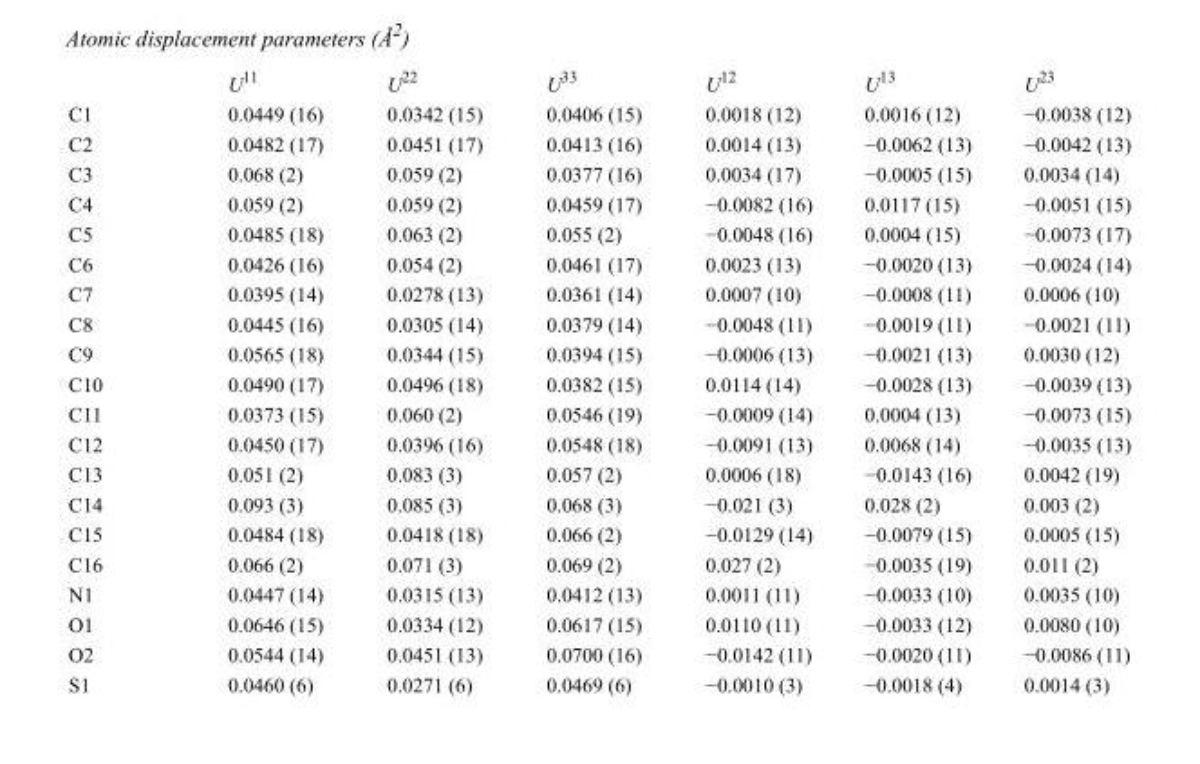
<table><thead><tr><td></td><td>U<sup>11</sup></td><td>U<sup>22</sup></td><td>U<sup>33</sup></td><td>U<sup>12</sup></td><td>U<sup>13</sup></td><td>U<sup>23</sup></td></tr></thead><tbody><tr><td>C1</td><td>0.0449 (16)</td><td>0.0342 (15)</td><td>0.0406 (15)</td><td>0.0018 (12)</td><td>0.0016 (12)</td><td>−0.0038 (12)</td></tr><tr><td>C2</td><td>0.0482 (17)</td><td>0.0451 (17)</td><td>0.0413 (16)</td><td>0.0014 (13)</td><td>−0.0062 (13)</td><td>−0.0042 (13)</td></tr><tr><td>C3</td><td>0.068 (2)</td><td>0.059 (2)</td><td>0.0377 (16)</td><td>0.0034 (17)</td><td>−0.0005 (15)</td><td>0.0034 (14)</td></tr><tr><td>C4</td><td>0.059 (2)</td><td>0.059 (2)</td><td>0.0459 (17)</td><td>−0.0082 (16)</td><td>0.0117 (15)</td><td>−0.0051 (15)</td></tr><tr><td>C5</td><td>0.0485 (18)</td><td>0.063 (2)</td><td>0.055 (2)</td><td>−0.0048 (16)</td><td>0.0004 (15)</td><td>−0.0073 (17)</td></tr><tr><td>C6</td><td>0.0426 (16)</td><td>0.054 (2)</td><td>0.0461 (17)</td><td>0.0023 (13)</td><td>−0.0020 (13)</td><td>−0.0024 (14)</td></tr><tr><td>C7</td><td>0.0395 (14)</td><td>0.0278 (13)</td><td>0.0361 (14)</td><td>0.0007 (10)</td><td>−0.0008 (11)</td><td>0.0006 (10)</td></tr><tr><td>C8</td><td>0.0445 (16)</td><td>0.0305 (14)</td><td>0.0379 (14)</td><td>−0.0048 (11)</td><td>−0.0019 (11)</td><td>−0.0021 (11)</td></tr><tr><td>C9</td><td>0.0565 (18)</td><td>0.0344 (15)</td><td>0.0394 (15)</td><td>−0.0006 (13)</td><td>−0.0021 (13)</td><td>0.0030 (12)</td></tr><tr><td>C10</td><td>0.0490 (17)</td><td>0.0496 (18)</td><td>0.0382 (15)</td><td>0.0114 (14)</td><td>−0.0028 (13)</td><td>−0.0039 (13)</td></tr><tr><td>C11</td><td>0.0373 (15)</td><td>0.060 (2)</td><td>0.0546 (19)</td><td>−0.0009 (14)</td><td>0.0004 (13)</td><td>−0.0073 (15)</td></tr><tr><td>C12</td><td>0.0450 (17)</td><td>0.0396 (16)</td><td>0.0548 (18)</td><td>−0.0091 (13)</td><td>0.0068 (14)</td><td>−0.0035 (13)</td></tr><tr><td>C13</td><td>0.051 (2)</td><td>0.083 (3)</td><td>0.057 (2)</td><td>0.0006 (18)</td><td>−0.0143 (16)</td><td>0.0042 (19)</td></tr><tr><td>C14</td><td>0.093 (3)</td><td>0.085 (3)</td><td>0.068 (3)</td><td>−0.021 (3)</td><td>0.028 (2)</td><td>0.003 (2)</td></tr><tr><td>C15</td><td>0.0484 (18)</td><td>0.0418 (18)</td><td>0.066 (2)</td><td>−0.0129 (14)</td><td>−0.0079 (15)</td><td>0.0005 (15)</td></tr><tr><td>C16</td><td>0.066 (2)</td><td>0.071 (3)</td><td>0.069 (2)</td><td>0.027 (2)</td><td>−0.0035 (19)</td><td>0.011 (2)</td></tr><tr><td>N1</td><td>0.0447 (14)</td><td>0.0315 (13)</td><td>0.0412 (13)</td><td>0.0011 (11)</td><td>−0.0033 (10)</td><td>0.0035 (10)</td></tr><tr><td>O1</td><td>0.0646 (15)</td><td>0.0334 (12)</td><td>0.0617 (15)</td><td>0.0110 (11)</td><td>−0.0033 (12)</td><td>0.0080 (10)</td></tr><tr><td>O2</td><td>0.0544 (14)</td><td>0.0451 (13)</td><td>0.0700 (16)</td><td>−0.0142 (11)</td><td>−0.0020 (11)</td><td>−0.0086 (11)</td></tr><tr><td>S1</td><td>0.0460 (6)</td><td>0.0271 (6)</td><td>0.0469 (6)</td><td>−0.0010 (3)</td><td>−0.0018 (4)</td><td>0.0014 (3)</td></tr></tbody></table>